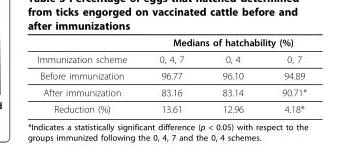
<table><thead><tr><td rowspan="2">Immunization scheme</td><td colspan="3">Medians of hatchability (%)</td></tr><tr><td>0, 4, 7</td><td>0, 4</td><td>0, 7</td></tr></thead><tbody><tr><td>Before immunization</td><td>96.77</td><td>96.10</td><td>94.89</td></tr><tr><td>After immunization</td><td>83.16</td><td>83.14</td><td>90.71*</td></tr><tr><td>Reduction (%)</td><td>13.61</td><td>12.96</td><td>4.18*</td></tr></tbody></table>